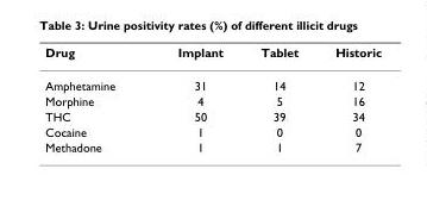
<table><thead><tr><td>Drug</td><td>Implant</td><td>Tablet</td><td>Historic</td></tr></thead><tbody><tr><td>Amphetamine</td><td>31</td><td>14</td><td>12</td></tr><tr><td>Morphine</td><td>4</td><td>5</td><td>16</td></tr><tr><td>THC</td><td>50</td><td>39</td><td>34</td></tr><tr><td>Cocaine</td><td>1</td><td>0</td><td>0</td></tr><tr><td>Methadone</td><td>1</td><td>1</td><td>7</td></tr></tbody></table>